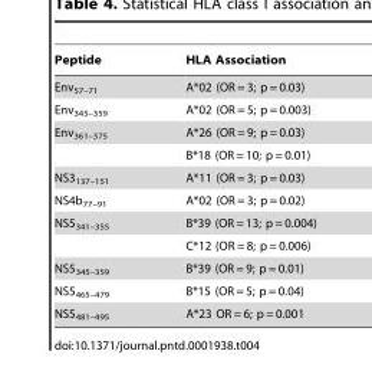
<table><thead><tr><td>Peptide</td><td>HLA Association</td></tr></thead><tbody><tr><td>Env<sub>57–71</sub></td><td>A*02 (OR = 3; p = 0.03)</td></tr><tr><td>Env<sub>345–359</sub></td><td>A*02 (OR = 5; p = 0.003)</td></tr><tr><td rowspan="2">Env<sub>361–375</sub></td><td>A*26 (OR = 9; p = 0.03)</td></tr><tr><td>B*18 (OR = 10; p = 0.01)</td></tr><tr><td>NS3<sub>137–151</sub></td><td>A*11 (OR = 3; p = 0.03)</td></tr><tr><td>NS4b<sub>77–91</sub></td><td>A*02 (OR = 3; p = 0.02)</td></tr><tr><td rowspan="2">NS5<sub>341–355</sub></td><td>B*39 (OR = 13; p = 0.004)</td></tr><tr><td>C*12 (OR = 8; p = 0.006)</td></tr><tr><td>NS5<sub>345–359</sub></td><td>B*39 (OR = 9; p = 0.01)</td></tr><tr><td>NS5<sub>465–479</sub></td><td>B*15 (OR = 5; p = 0.04)</td></tr><tr><td>NS5<sub>481–495</sub></td><td>A*23 OR = 6; p = 0.001</td></tr></tbody></table>